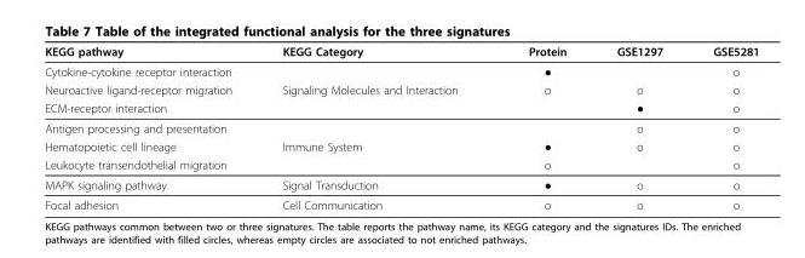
<table><thead><tr><td>KEGG pathway</td><td>KEGG Category</td><td>Protein</td><td>GSE1297</td><td>GSE5281</td></tr></thead><tbody><tr><td>Cytokine-cytokine receptor interaction</td><td></td><td>●</td><td></td><td>o</td></tr><tr><td>Neuroactive ligand-receptor migration</td><td>Signaling Molecules and Interaction</td><td>o</td><td>o</td><td>o</td></tr><tr><td>ECM-receptor interaction</td><td></td><td></td><td>●</td><td>o</td></tr><tr><td>Antigen processing and presentation</td><td></td><td></td><td>o</td><td>o</td></tr><tr><td>Hematopoietic cell lineage</td><td>Immune System</td><td>●</td><td>o</td><td>o</td></tr><tr><td>Leukocyte transendothelial migration</td><td></td><td>o</td><td></td><td>o</td></tr><tr><td>MAPK signaling pathway</td><td>Signal Transduction</td><td>●</td><td>o</td><td>o</td></tr><tr><td>Focal adhesion</td><td>Cell Communication</td><td>o</td><td>o</td><td>o</td></tr></tbody></table>